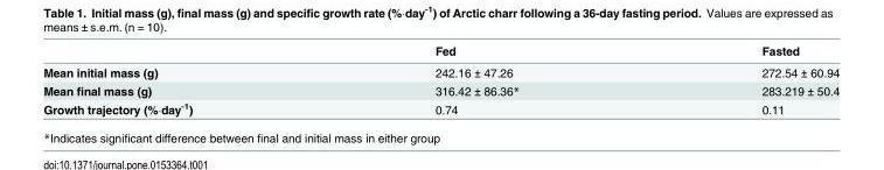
<table><thead><tr><td></td><td>Fed</td><td>Fasted</td></tr></thead><tbody><tr><td>Mean initial mass (g)</td><td>242.16 ± 47.26</td><td>272.54 ± 60.94</td></tr><tr><td>Mean final mass (g)</td><td>316.42 ± 86.36*</td><td>283.219 ± 50.4</td></tr><tr><td>Growth trajectory (%·day<sup>-1</sup>)</td><td>0.74</td><td>0.11</td></tr></tbody></table>